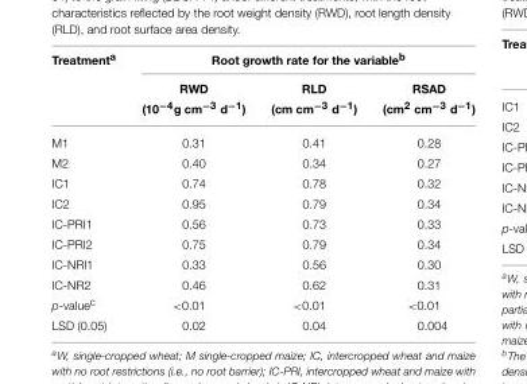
<table><thead><tr><td rowspan="3">Treatment<sup>a</sup></td><td colspan="3">Root growth rate for the variable<sup>b</sup></td></tr><tr><td rowspan="2">RWD (10<sup>−4</sup>g cm<sup>−3</sup> d<sup>−1</sup>)</td><td rowspan="2">RLD (cm cm<sup>−3</sup> d<sup>−1</sup>)</td><td rowspan="2">RSAD (cm<sup>2</sup> cm<sup>−3</sup> d<sup>−1</sup>)</td></tr><tr></tr></thead><tbody><tr><td>M1</td><td>0.31</td><td>0.41</td><td>0.28</td></tr><tr><td>M2</td><td>0.40</td><td>0.34</td><td>0.27</td></tr><tr><td>IC1</td><td>0.74</td><td>0.78</td><td>0.32</td></tr><tr><td>IC2</td><td>0.95</td><td>0.79</td><td>0.34</td></tr><tr><td>IC-PRI1</td><td>0.56</td><td>0.73</td><td>0.33</td></tr><tr><td>IC-PRI2</td><td>0.75</td><td>0.79</td><td>0.34</td></tr><tr><td>IC-NRI1</td><td>0.33</td><td>0.56</td><td>0.30</td></tr><tr><td>IC-NR2</td><td>0.46</td><td>0.62</td><td>0.31</td></tr><tr><td>p-value<sup>c</sup></td><td>&lt;0.01</td><td>&lt;0.01</td><td>&lt;0.01</td></tr><tr><td>LSD (0.05)</td><td>0.02</td><td>0.04</td><td>0.004</td></tr></tbody></table>